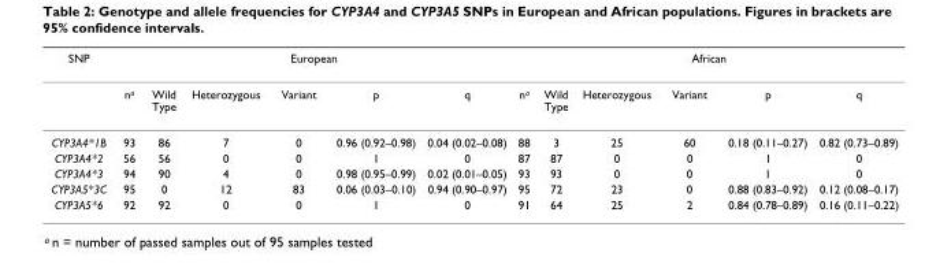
<table><thead><tr><td rowspan="2">SNP</td><td colspan="6">European</td><td colspan="6">African</td></tr><tr><td>na</td><td>Wild Type</td><td>Heterozygous</td><td>Variant</td><td>p</td><td>q</td><td>na</td><td>Wild Type</td><td>Heterozygous</td><td>Variant</td><td>p</td><td>q</td></tr></thead><tbody><tr><td>CYP3A4*1B</td><td>93</td><td>86</td><td>7</td><td>0</td><td>0.96 (0.92–0.98)</td><td>0.04 (0.02–0.08)</td><td>88</td><td>3</td><td>25</td><td>60</td><td>0.18 (0.11–0.27)</td><td>0.82 (0.73–0.89)</td></tr><tr><td>CYP3A4*2</td><td>56</td><td>56</td><td>0</td><td>0</td><td>1</td><td>0</td><td>87</td><td>87</td><td>0</td><td>0</td><td>1</td><td>0</td></tr><tr><td>CYP3A4*3</td><td>94</td><td>90</td><td>4</td><td>0</td><td>0.98 (0.95–0.99)</td><td>0.02 (0.01–0.05)</td><td>93</td><td>93</td><td>0</td><td>0</td><td>1</td><td>0</td></tr><tr><td>CYP3A5*3C</td><td>95</td><td>0</td><td>12</td><td>83</td><td>0.06 (0.03–0.10)</td><td>0.94 (0.90–0.97)</td><td>95</td><td>72</td><td>23</td><td>0</td><td>0.88 (0.83–0.92)</td><td>0.12 (0.08–0.17)</td></tr><tr><td>CYP3A5*6</td><td>92</td><td>92</td><td>0</td><td>0</td><td>1</td><td>0</td><td>91</td><td>64</td><td>25</td><td>2</td><td>0.84 (0.78–0.89)</td><td>0.16 (0.11–0.22)</td></tr></tbody></table>